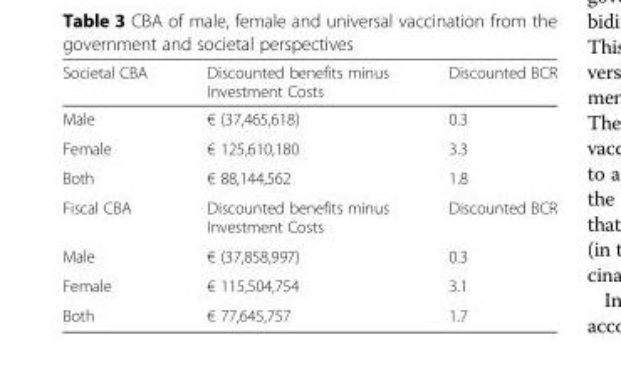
<table><thead><tr><td>Societal CBA</td><td>Discounted benefits minus Investment Costs</td><td>Discounted BCR</td></tr></thead><tbody><tr><td>Male</td><td>€ (37,465,618)</td><td>0.3</td></tr><tr><td>Female</td><td>€ 125,610,180</td><td>3.3</td></tr><tr><td>Both</td><td>€ 88,144,562</td><td>1.8</td></tr><tr><td>Fiscal CBA</td><td>Discounted benefits minus Investment Costs</td><td>Discounted BCR</td></tr><tr><td>Male</td><td>€ (37,858,997)</td><td>0.3</td></tr><tr><td>Female</td><td>€ 115,504,754</td><td>3.1</td></tr><tr><td>Both</td><td>€ 77,645,757</td><td>1.7</td></tr></tbody></table>